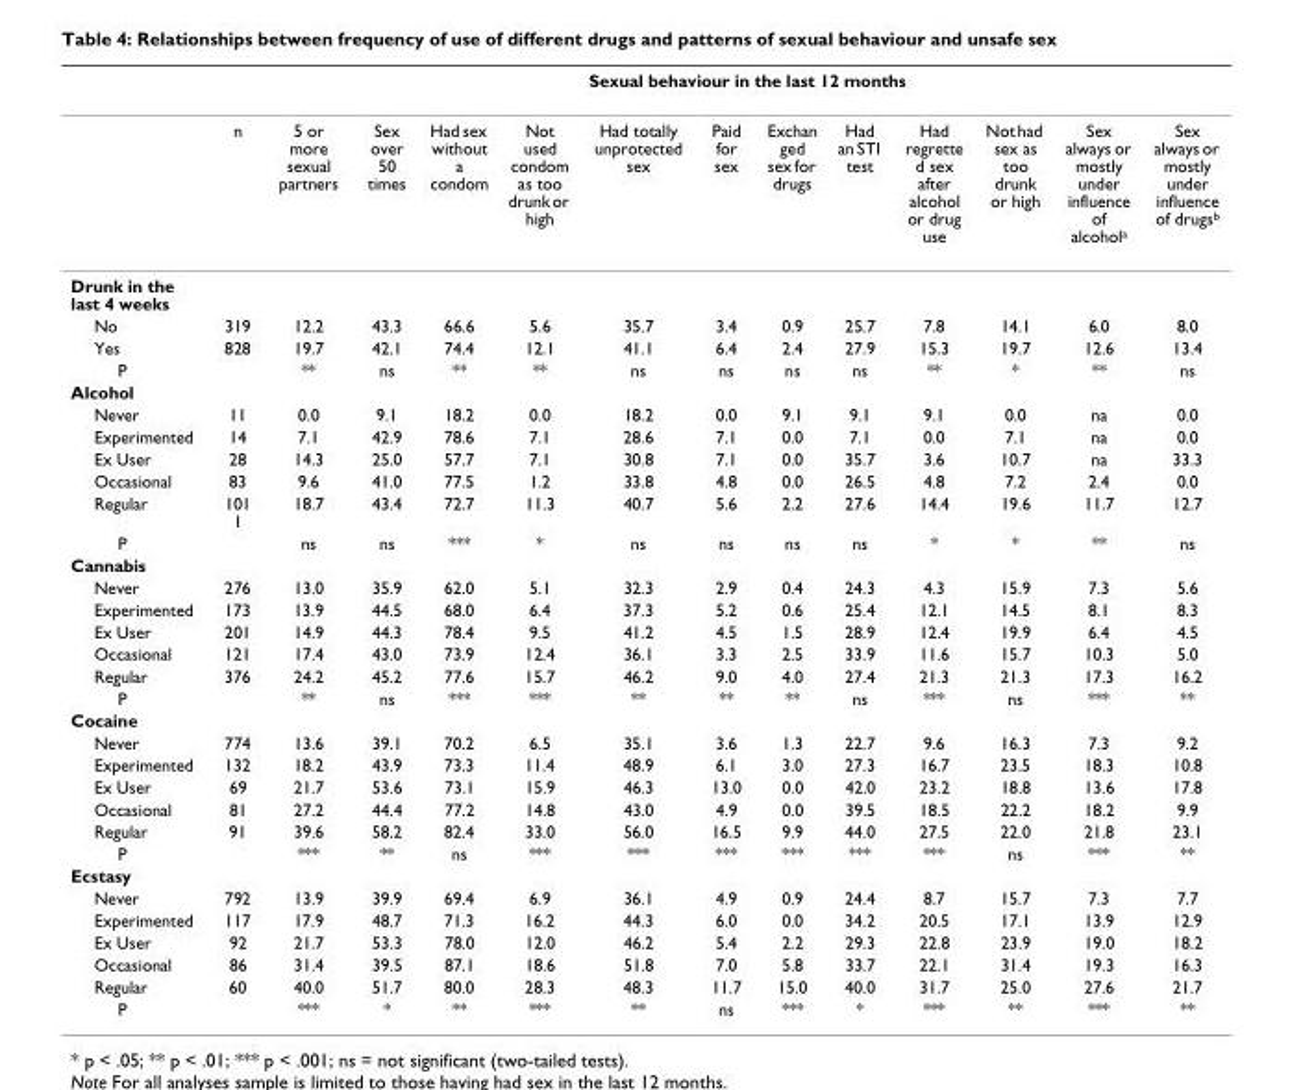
<table><thead><tr><td rowspan="2"></td><td rowspan="2">n</td><td colspan="12">Sexual behaviour in the last 12 months</td></tr><tr><td>5 or more sexual partners</td><td>Sex over 50 times</td><td>Had sex without a condom</td><td>Not used condom as too drunk or high</td><td>Had totally unprotected sex</td><td>Paid for sex</td><td>Exchan ged sex for drugs</td><td>Had an STI test</td><td>Had regrette d sex after alcohol or drug use</td><td>Not had sex as too drunk or high</td><td>Sex always or mostly under influence of alcohol<sup>a</sup></td><td>Sex always or mostly under influence of drugs<sup>b</sup></td></tr></thead><tbody><tr><td colspan="14">Drunk in the last 4 weeks</td></tr><tr><td>No</td><td>319</td><td>12.2</td><td>43.3</td><td>66.6</td><td>5.6</td><td>35.7</td><td>3.4</td><td>0.9</td><td>25.7</td><td>7.8</td><td>14.1</td><td>6.0</td><td>8.0</td></tr><tr><td>Yes</td><td>828</td><td>19.7</td><td>42.1</td><td>74.4</td><td>12.1</td><td>41.1</td><td>6.4</td><td>2.4</td><td>27.9</td><td>15.3</td><td>19.7</td><td>12.6</td><td>13.4</td></tr><tr><td>P</td><td></td><td>**</td><td>ns</td><td>**</td><td>**</td><td>ns</td><td>ns</td><td>ns</td><td>ns</td><td>**</td><td>*</td><td>**</td><td>ns</td></tr><tr><td colspan="14">Alcohol</td></tr><tr><td>Never</td><td>11</td><td>0.0</td><td>9.1</td><td>18.2</td><td>0.0</td><td>18.2</td><td>0.0</td><td>9.1</td><td>9.1</td><td>9.1</td><td>0.0</td><td>na</td><td>0.0</td></tr><tr><td>Experimented</td><td>14</td><td>7.1</td><td>42.9</td><td>78.6</td><td>7.1</td><td>28.6</td><td>7.1</td><td>0.0</td><td>7.1</td><td>0.0</td><td>7.1</td><td>na</td><td>0.0</td></tr><tr><td>Ex User</td><td>28</td><td>14.3</td><td>25.0</td><td>57.7</td><td>7.1</td><td>30.8</td><td>7.1</td><td>0.0</td><td>35.7</td><td>3.6</td><td>10.7</td><td>na</td><td>33.3</td></tr><tr><td>Occasional</td><td>83</td><td>9.6</td><td>41.0</td><td>77.5</td><td>1.2</td><td>33.8</td><td>4.8</td><td>0.0</td><td>26.5</td><td>4.8</td><td>7.2</td><td>2.4</td><td>0.0</td></tr><tr><td>Regular</td><td>101 1</td><td>18.7</td><td>43.4</td><td>72.7</td><td>11.3</td><td>40.7</td><td>5.6</td><td>2.2</td><td>27.6</td><td>14.4</td><td>19.6</td><td>11.7</td><td>12.7</td></tr><tr><td>P</td><td></td><td>ns</td><td>ns</td><td>***</td><td>*</td><td>ns</td><td>ns</td><td>ns</td><td>ns</td><td>*</td><td>*</td><td>**</td><td>ns</td></tr><tr><td colspan="14">Cannabis</td></tr><tr><td>Never</td><td>276</td><td>13.0</td><td>35.9</td><td>62.0</td><td>5.1</td><td>32.3</td><td>2.9</td><td>0.4</td><td>24.3</td><td>4.3</td><td>15.9</td><td>7.3</td><td>5.6</td></tr><tr><td>Experimented</td><td>173</td><td>13.9</td><td>44.5</td><td>68.0</td><td>6.4</td><td>37.3</td><td>5.2</td><td>0.6</td><td>25.4</td><td>12.1</td><td>14.5</td><td>8.1</td><td>8.3</td></tr><tr><td>Ex User</td><td>201</td><td>14.9</td><td>44.3</td><td>78.4</td><td>9.5</td><td>41.2</td><td>4.5</td><td>1.5</td><td>28.9</td><td>12.4</td><td>19.9</td><td>6.4</td><td>4.5</td></tr><tr><td>Occasional</td><td>121</td><td>17.4</td><td>43.0</td><td>73.9</td><td>12.4</td><td>36.1</td><td>3.3</td><td>2.5</td><td>33.9</td><td>11.6</td><td>15.7</td><td>10.3</td><td>5.0</td></tr><tr><td>Regular</td><td>376</td><td>24.2</td><td>45.2</td><td>77.6</td><td>15.7</td><td>46.2</td><td>9.0</td><td>4.0</td><td>27.4</td><td>21.3</td><td>21.3</td><td>17.3</td><td>16.2</td></tr><tr><td>P</td><td></td><td>**</td><td>ns</td><td>***</td><td>***</td><td>**</td><td>**</td><td>**</td><td>ns</td><td>***</td><td>ns</td><td>***</td><td>**</td></tr><tr><td colspan="14">Cocaine</td></tr><tr><td>Never</td><td>774</td><td>13.6</td><td>39.1</td><td>70.2</td><td>6.5</td><td>35.1</td><td>3.6</td><td>1.3</td><td>22.7</td><td>9.6</td><td>16.3</td><td>7.3</td><td>9.2</td></tr><tr><td>Experimented</td><td>132</td><td>18.2</td><td>43.9</td><td>73.3</td><td>11.4</td><td>48.9</td><td>6.1</td><td>3.0</td><td>27.3</td><td>16.7</td><td>23.5</td><td>18.3</td><td>10.8</td></tr><tr><td>Ex User</td><td>69</td><td>21.7</td><td>53.6</td><td>73.1</td><td>15.9</td><td>46.3</td><td>13.0</td><td>0.0</td><td>42.0</td><td>23.2</td><td>18.8</td><td>13.6</td><td>17.8</td></tr><tr><td>Occasional</td><td>81</td><td>27.2</td><td>44.4</td><td>77.2</td><td>14.8</td><td>43.0</td><td>4.9</td><td>0.0</td><td>39.5</td><td>18.5</td><td>22.2</td><td>18.2</td><td>9.9</td></tr><tr><td>Regular</td><td>91</td><td>39.6</td><td>58.2</td><td>82.4</td><td>33.0</td><td>56.0</td><td>16.5</td><td>9.9</td><td>44.0</td><td>27.5</td><td>22.0</td><td>21.8</td><td>23.1</td></tr><tr><td>P</td><td></td><td>***</td><td>**</td><td>ns</td><td>***</td><td>***</td><td>***</td><td>***</td><td>***</td><td>***</td><td>ns</td><td>***</td><td>**</td></tr><tr><td colspan="14">Ecstasy</td></tr><tr><td>Never</td><td>792</td><td>13.9</td><td>39.9</td><td>69.4</td><td>6.9</td><td>36.1</td><td>4.9</td><td>0.9</td><td>24.4</td><td>8.7</td><td>15.7</td><td>7.3</td><td>7.7</td></tr><tr><td>Experimented</td><td>117</td><td>17.9</td><td>48.7</td><td>71.3</td><td>16.2</td><td>44.3</td><td>6.0</td><td>0.0</td><td>34.2</td><td>20.5</td><td>17.1</td><td>13.9</td><td>12.9</td></tr><tr><td>Ex User</td><td>92</td><td>21.7</td><td>53.3</td><td>78.0</td><td>12.0</td><td>46.2</td><td>5.4</td><td>2.2</td><td>29.3</td><td>22.8</td><td>23.9</td><td>19.0</td><td>18.2</td></tr><tr><td>Occasional</td><td>86</td><td>31.4</td><td>39.5</td><td>87.1</td><td>18.6</td><td>51.8</td><td>7.0</td><td>5.8</td><td>33.7</td><td>22.1</td><td>31.4</td><td>19.3</td><td>16.3</td></tr><tr><td>Regular</td><td>60</td><td>40.0</td><td>51.7</td><td>80.0</td><td>28.3</td><td>48.3</td><td>11.7</td><td>15.0</td><td>40.0</td><td>31.7</td><td>25.0</td><td>27.6</td><td>21.7</td></tr><tr><td>P</td><td></td><td>***</td><td>*</td><td>**</td><td>***</td><td>**</td><td>ns</td><td>***</td><td>*</td><td>***</td><td>**</td><td>***</td><td>**</td></tr></tbody></table>